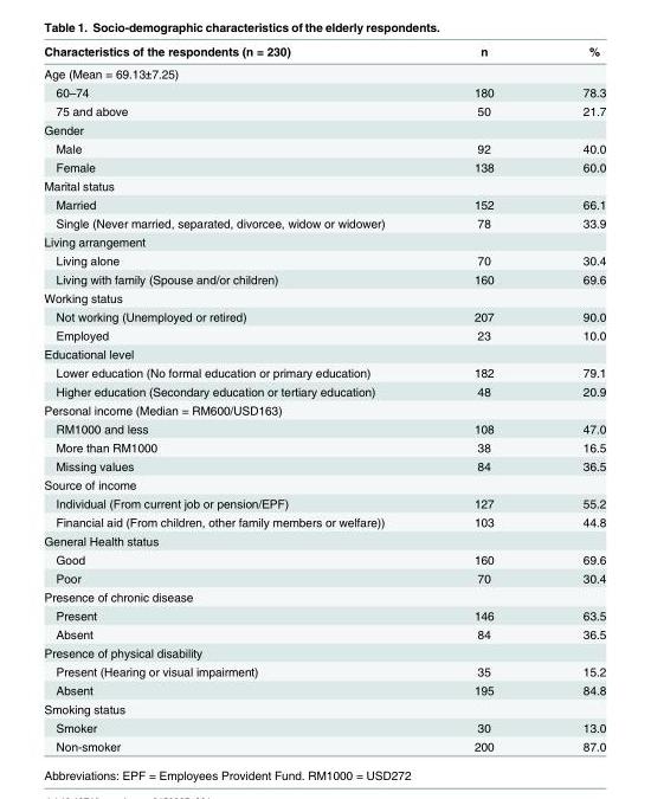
<table><thead><tr><td>Characteristics of the respondents (n = 230)</td><td>n</td><td>%</td></tr></thead><tbody><tr><td colspan="3">Age (Mean = 69.13±7.25)</td></tr><tr><td>60–74</td><td>180</td><td>78.3</td></tr><tr><td>75 and above</td><td>50</td><td>21.7</td></tr><tr><td colspan="3">Gender</td></tr><tr><td>Male</td><td>92</td><td>40.0</td></tr><tr><td>Female</td><td>138</td><td>60.0</td></tr><tr><td colspan="3">Marital status</td></tr><tr><td>Married</td><td>152</td><td>66.1</td></tr><tr><td>Single (Never married, separated, divorcee, widow or widower)</td><td>78</td><td>33.9</td></tr><tr><td colspan="3">Living arrangement</td></tr><tr><td>Living alone</td><td>70</td><td>30.4</td></tr><tr><td>Living with family (Spouse and/or children)</td><td>160</td><td>69.6</td></tr><tr><td colspan="3">Working status</td></tr><tr><td>Not working (Unemployed or retired)</td><td>207</td><td>90.0</td></tr><tr><td>Employed</td><td>23</td><td>10.0</td></tr><tr><td colspan="3">Educational level</td></tr><tr><td>Lower education (No formal education or primary education)</td><td>182</td><td>79.1</td></tr><tr><td>Higher education (Secondary education or tertiary education)</td><td>48</td><td>20.9</td></tr><tr><td colspan="3">Personal income (Median = RM600/USD163)</td></tr><tr><td>RM1000 and less</td><td>108</td><td>47.0</td></tr><tr><td>More than RM1000</td><td>38</td><td>16.5</td></tr><tr><td>Missing values</td><td>84</td><td>36.5</td></tr><tr><td colspan="3">Source of income</td></tr><tr><td>Individual (From current job or pension/EPF)</td><td>127</td><td>55.2</td></tr><tr><td>Financial aid (From children, other family members or welfare))</td><td>103</td><td>44.8</td></tr><tr><td colspan="3">General Health status</td></tr><tr><td>Good</td><td>160</td><td>69.6</td></tr><tr><td>Poor</td><td>70</td><td>30.4</td></tr><tr><td colspan="3">Presence of chronic disease</td></tr><tr><td>Present</td><td>146</td><td>63.5</td></tr><tr><td>Absent</td><td>84</td><td>36.5</td></tr><tr><td colspan="3">Presence of physical disability</td></tr><tr><td>Present (Hearing or visual impairment)</td><td>35</td><td>15.2</td></tr><tr><td>Absent</td><td>195</td><td>84.8</td></tr><tr><td colspan="3">Smoking status</td></tr><tr><td>Smoker</td><td>30</td><td>13.0</td></tr><tr><td>Non-smoker</td><td>200</td><td>87.0</td></tr></tbody></table>